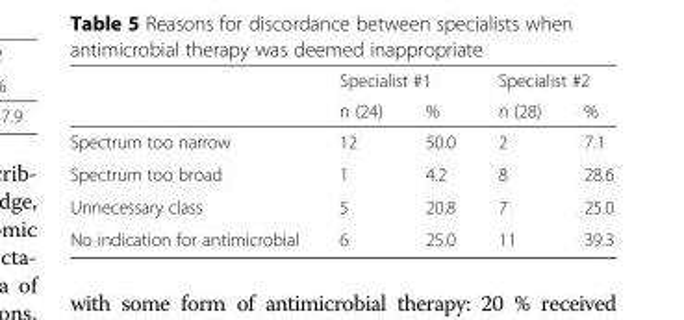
<table><thead><tr><td rowspan="2"></td><td colspan="2">Specialist #1</td><td colspan="2">Specialist #2</td></tr><tr><td>n (24)</td><td>%</td><td>n (28)</td><td>%</td></tr></thead><tbody><tr><td>Spectrum too narrow</td><td>12</td><td>50.0</td><td>2</td><td>7.1</td></tr><tr><td>Spectrum too broad</td><td>1</td><td>4.2</td><td>8</td><td>28.6</td></tr><tr><td>Unnecessary class</td><td>5</td><td>20.8</td><td>7</td><td>25.0</td></tr><tr><td>No indication for antimicrobial</td><td>6</td><td>25.0</td><td>11</td><td>39.3</td></tr></tbody></table>